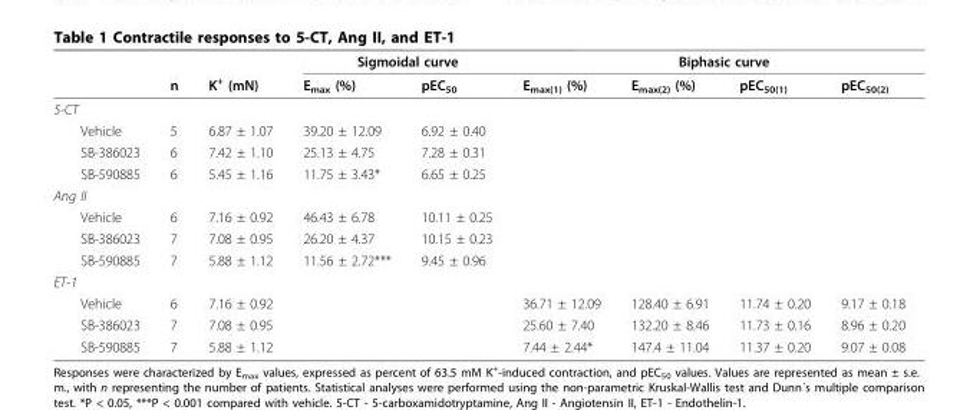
<table><thead><tr><td rowspan="2"></td><td rowspan="2">n</td><td rowspan="2">K<sup>+</sup> (mN)</td><td colspan="2">Sigmoidal curve</td><td colspan="4">Biphasic curve</td></tr><tr><td>E<sub>max</sub> (%)</td><td>pEC<sub>50</sub></td><td>E<sub>max(1)</sub> (%)</td><td>E<sub>max(2)</sub> (%)</td><td>pEC<sub>50(1)</sub></td><td>pEC<sub>50(2)</sub></td></tr></thead><tbody><tr><td colspan="9">5-CT</td></tr><tr><td>Vehicle</td><td>5</td><td>6.87 ± 1.07</td><td>39.20 ± 12.09</td><td>6.92 ± 0.40</td><td></td><td></td><td></td><td></td></tr><tr><td>SB-386023</td><td>6</td><td>7.42 ± 1.10</td><td>25.13 ± 4.75</td><td>7.28 ± 0.31</td><td></td><td></td><td></td><td></td></tr><tr><td>SB-590885</td><td>6</td><td>5.45 ± 1.16</td><td>11.75 ± 3.43*</td><td>6.65 ± 0.25</td><td></td><td></td><td></td><td></td></tr><tr><td colspan="9">Ang II</td></tr><tr><td>Vehicle</td><td>6</td><td>7.16 ± 0.92</td><td>46.43 ± 6.78</td><td>10.11 ± 0.25</td><td></td><td></td><td></td><td></td></tr><tr><td>SB-386023</td><td>7</td><td>7.08 ± 0.95</td><td>26.20 ± 4.37</td><td>10.15 ± 0.23</td><td></td><td></td><td></td><td></td></tr><tr><td>SB-590885</td><td>7</td><td>5.88 ± 1.12</td><td>11.56 ± 2.72***</td><td>9.45 ± 0.96</td><td></td><td></td><td></td><td></td></tr><tr><td colspan="9">ET-1</td></tr><tr><td>Vehicle</td><td>6</td><td>7.16 ± 0.92</td><td></td><td></td><td>36.71 ± 12.09</td><td>128.40 ± 6.91</td><td>11.74 ± 0.20</td><td>9.17 ± 0.18</td></tr><tr><td>SB-386023</td><td>7</td><td>7.08 ± 0.95</td><td></td><td></td><td>25.60 ± 7.40</td><td>132.20 ± 8.46</td><td>11.73 ± 0.16</td><td>8.96 ± 0.20</td></tr><tr><td>SB-590885</td><td>7</td><td>5.88 ± 1.12</td><td></td><td></td><td>7.44 ± 2.44*</td><td>147.4 ± 11.04</td><td>11.37 ± 0.20</td><td>9.07 ± 0.08</td></tr></tbody></table>